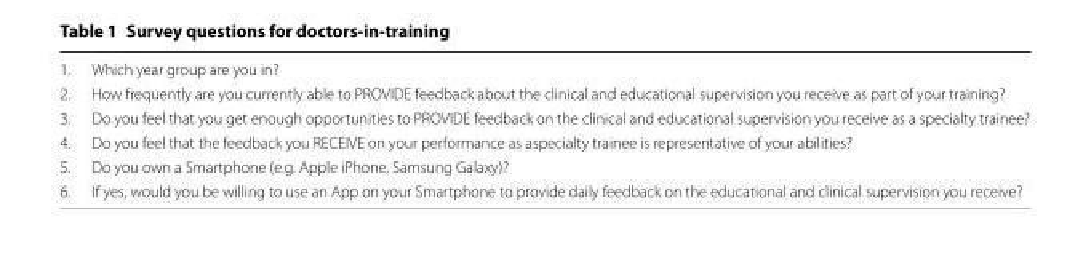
<table><tbody><tr><td>1.</td><td>Which year group are you in?</td></tr><tr><td>2.</td><td>How frequently are you currently able to PROVIDE feedback about the clinical and educational supervision you receive as part of your training?</td></tr><tr><td>3.</td><td>Do you feel that you get enough opportunities to PROVIDE feedback on the clinical and educational supervision you receive as a specialty trainee?</td></tr><tr><td>4.</td><td>Do you feel that the feedback you RECEIVE on your performance as aspecialty trainee is representative of your abilities?</td></tr><tr><td>5.</td><td>Do you own a Smartphone (e.g. Apple iPhone, Samsung Galaxy)?</td></tr><tr><td>6.</td><td>If yes, would you be willing to use an App on your Smartphone to provide daily feedback on the educational and clinical supervision you receive?</td></tr></tbody></table>